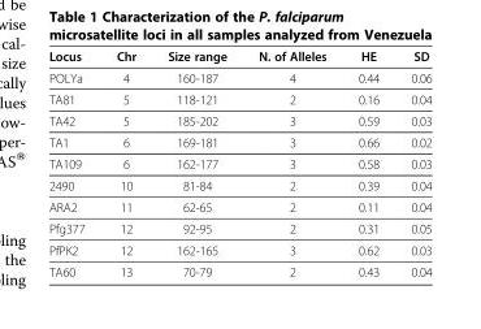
<table><thead><tr><td>Locus</td><td>Chr</td><td>Size range</td><td>N. of Alleles</td><td>HE</td><td>SD</td></tr></thead><tbody><tr><td>POLYa</td><td>4</td><td>160-187</td><td>4</td><td>0.44</td><td>0.06</td></tr><tr><td>TA81</td><td>5</td><td>118-121</td><td>2</td><td>0.16</td><td>0.04</td></tr><tr><td>TA42</td><td>5</td><td>185-202</td><td>3</td><td>0.59</td><td>0.03</td></tr><tr><td>TA1</td><td>6</td><td>169-181</td><td>3</td><td>0.66</td><td>0.02</td></tr><tr><td>TA109</td><td>6</td><td>162-177</td><td>3</td><td>0.58</td><td>0.03</td></tr><tr><td>2490</td><td>10</td><td>81-84</td><td>2</td><td>0.39</td><td>0.04</td></tr><tr><td>ARA2</td><td>11</td><td>62-65</td><td>2</td><td>0.11</td><td>0.04</td></tr><tr><td>Pfg377</td><td>12</td><td>92-95</td><td>2</td><td>0.31</td><td>0.05</td></tr><tr><td>PfPK2</td><td>12</td><td>162-165</td><td>3</td><td>0.62</td><td>0.03</td></tr><tr><td>TA60</td><td>13</td><td>70-79</td><td>2</td><td>0.43</td><td>0.04</td></tr></tbody></table>